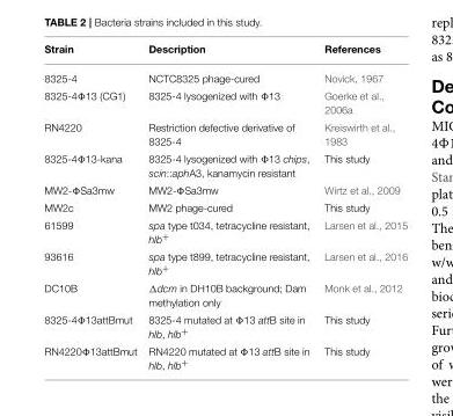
<table><thead><tr><td>Strain</td><td>Description</td><td>References</td></tr></thead><tbody><tr><td>8325-4</td><td>NCTC8325 phage-cured</td><td>Novick, 1967</td></tr><tr><td>8325-4Φ13 (CG1)</td><td>8325-4 lysogenized with Φ13</td><td>Goerke et al., 2006a</td></tr><tr><td>RN4220</td><td>Restriction defective derivative of 8325-4</td><td>Kreiswirth et al., 1983</td></tr><tr><td>8325-4Φ13-kana</td><td>8325-4 lysogenized with Φ13 chips, scin::aphA3, kanamycin resistant</td><td>This study</td></tr><tr><td>MW2-ΦSa3mw</td><td>MW2-ΦSa3mw</td><td>Wirtz et al., 2009</td></tr><tr><td>MW2c</td><td>MW2 phage-cured</td><td>This study</td></tr><tr><td>61599</td><td>spa type t034, tetracycline resistant, hlb<sup>+</sup></td><td>Larsen et al., 2015</td></tr><tr><td>93616</td><td>spa type t899, tetracycline resistant, hlb<sup>+</sup></td><td>Larsen et al., 2016</td></tr><tr><td>DC10B</td><td>Δdcm in DH10B background; Dam methylation only</td><td>Monk et al., 2012</td></tr><tr><td>8325-4Φ13attBmut</td><td>8325-4 mutated at Φ13 attB site in hlb, hlb<sup>+</sup></td><td>This study</td></tr><tr><td>RN4220Φ13attBmut</td><td>RN4220 mutated at Φ13 attB site in hlb, hlb<sup>+</sup></td><td>This study</td></tr></tbody></table>